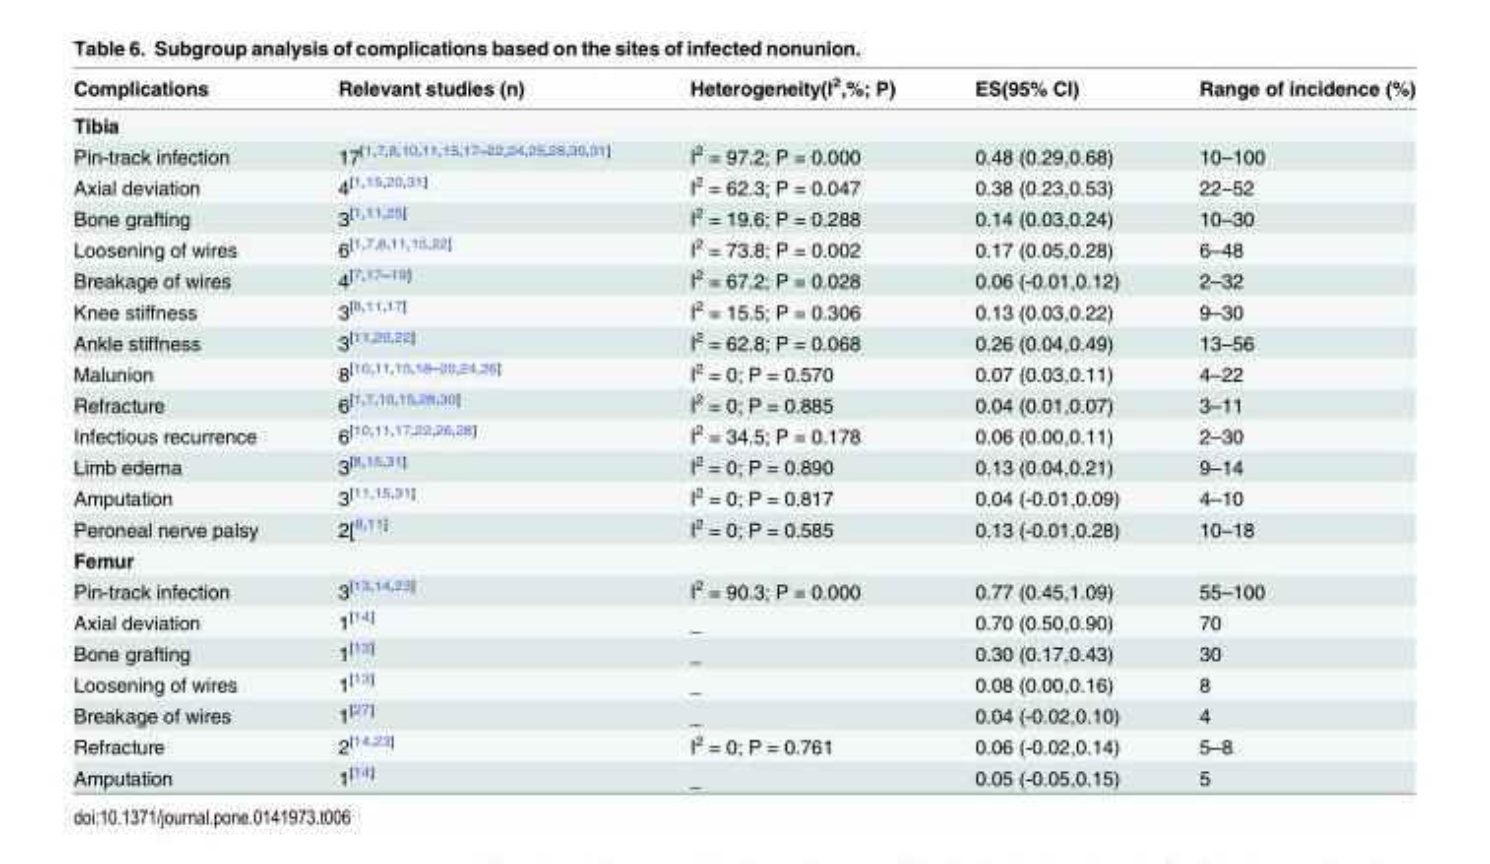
<table><thead><tr><td>Complications</td><td>Relevant studies (n)</td><td>Heterogeneity(I<sup>2</sup>,%; P)</td><td>ES(95% CI)</td><td>Range of incidence (%)</td></tr></thead><tbody><tr><td colspan="5">Tibia</td></tr><tr><td>Pin-track infection</td><td>17<sup>[1,7,8,10,11,15,17–22,24,25,28,30,31]</sup></td><td>I<sup>2</sup> = 97.2; P = 0.000</td><td>0.48 (0.29,0.68)</td><td>10–100</td></tr><tr><td>Axial deviation</td><td>4<sup>[1,15,20,31]</sup></td><td>I<sup>2</sup> = 62.3; P = 0.047</td><td>0.38 (0.23,0.53)</td><td>22–52</td></tr><tr><td>Bone grafting</td><td>3<sup>[1,11,25]</sup></td><td>I<sup>2</sup> = 19.6; P = 0.288</td><td>0.14 (0.03,0.24)</td><td>10–30</td></tr><tr><td>Loosening of wires</td><td>6<sup>[1,7,8,11,15,22]</sup></td><td>I<sup>2</sup> = 73.8; P = 0.002</td><td>0.17 (0.05,0.28)</td><td>6–48</td></tr><tr><td>Breakage of wires</td><td>4<sup>[7,17–19]</sup></td><td>I<sup>2</sup> = 67.2; P = 0.028</td><td>0.06 (-0.01,0.12)</td><td>2–32</td></tr><tr><td>Knee stiffness</td><td>3<sup>[8,11,17]</sup></td><td>I<sup>2</sup> = 15.5; P = 0.306</td><td>0.13 (0.03,0.22)</td><td>9–30</td></tr><tr><td>Ankle stiffness</td><td>3<sup>[11,20,22]</sup></td><td>I<sup>2</sup> = 62.8; P = 0.068</td><td>0.26 (0.04,0.49)</td><td>13–56</td></tr><tr><td>Malunion</td><td>8<sup>[10,11,15,18–20,24,26]</sup></td><td>I<sup>2</sup> = 0; P = 0.570</td><td>0.07 (0.03,0.11)</td><td>4–22</td></tr><tr><td>Refracture</td><td>6<sup>[1,7,10,15,28,30]</sup></td><td>I<sup>2</sup> = 0; P = 0.885</td><td>0.04 (0.01,0.07)</td><td>3–11</td></tr><tr><td>Infectious recurrence</td><td>6<sup>[10,11,17,22,26,28]</sup></td><td>I<sup>2</sup> = 34.5; P = 0.178</td><td>0.06 (0.00,0.11)</td><td>2–30</td></tr><tr><td>Limb edema</td><td>3<sup>[8,15,31]</sup></td><td>I<sup>2</sup> = 0; P = 0.890</td><td>0.13 (0.04,0.21)</td><td>9–14</td></tr><tr><td>Amputation</td><td>3<sup>[11,15,31]</sup></td><td>I<sup>2</sup> = 0; P = 0.817</td><td>0.04 (-0.01,0.09)</td><td>4–10</td></tr><tr><td>Peroneal nerve palsy</td><td>2[<sup>8,11]</sup></td><td>I<sup>2</sup> = 0; P = 0.585</td><td>0.13 (-0.01,0.28)</td><td>10–18</td></tr><tr><td colspan="5">Femur</td></tr><tr><td>Pin-track infection</td><td>3<sup>[13,14,23]</sup></td><td>I<sup>2</sup> = 90.3; P = 0.000</td><td>0.77 (0.45,1.09)</td><td>55–100</td></tr><tr><td>Axial deviation</td><td>1<sup>[14]</sup></td><td>_</td><td>0.70 (0.50,0.90)</td><td>70</td></tr><tr><td>Bone grafting</td><td>1<sup>[13]</sup></td><td>_</td><td>0.30 (0.17,0.43)</td><td>30</td></tr><tr><td>Loosening of wires</td><td>1<sup>[13]</sup></td><td>_</td><td>0.08 (0.00,0.16)</td><td>8</td></tr><tr><td>Breakage of wires</td><td>1<sup>[27]</sup></td><td>_</td><td>0.04 (-0.02,0.10)</td><td>4</td></tr><tr><td>Refracture</td><td>2<sup>[14,23]</sup></td><td>I<sup>2</sup> = 0; P = 0.761</td><td>0.06 (-0.02,0.14)</td><td>5–8</td></tr><tr><td>Amputation</td><td>1<sup>[14]</sup></td><td>_</td><td>0.05 (-0.05,0.15)</td><td>5</td></tr></tbody></table>